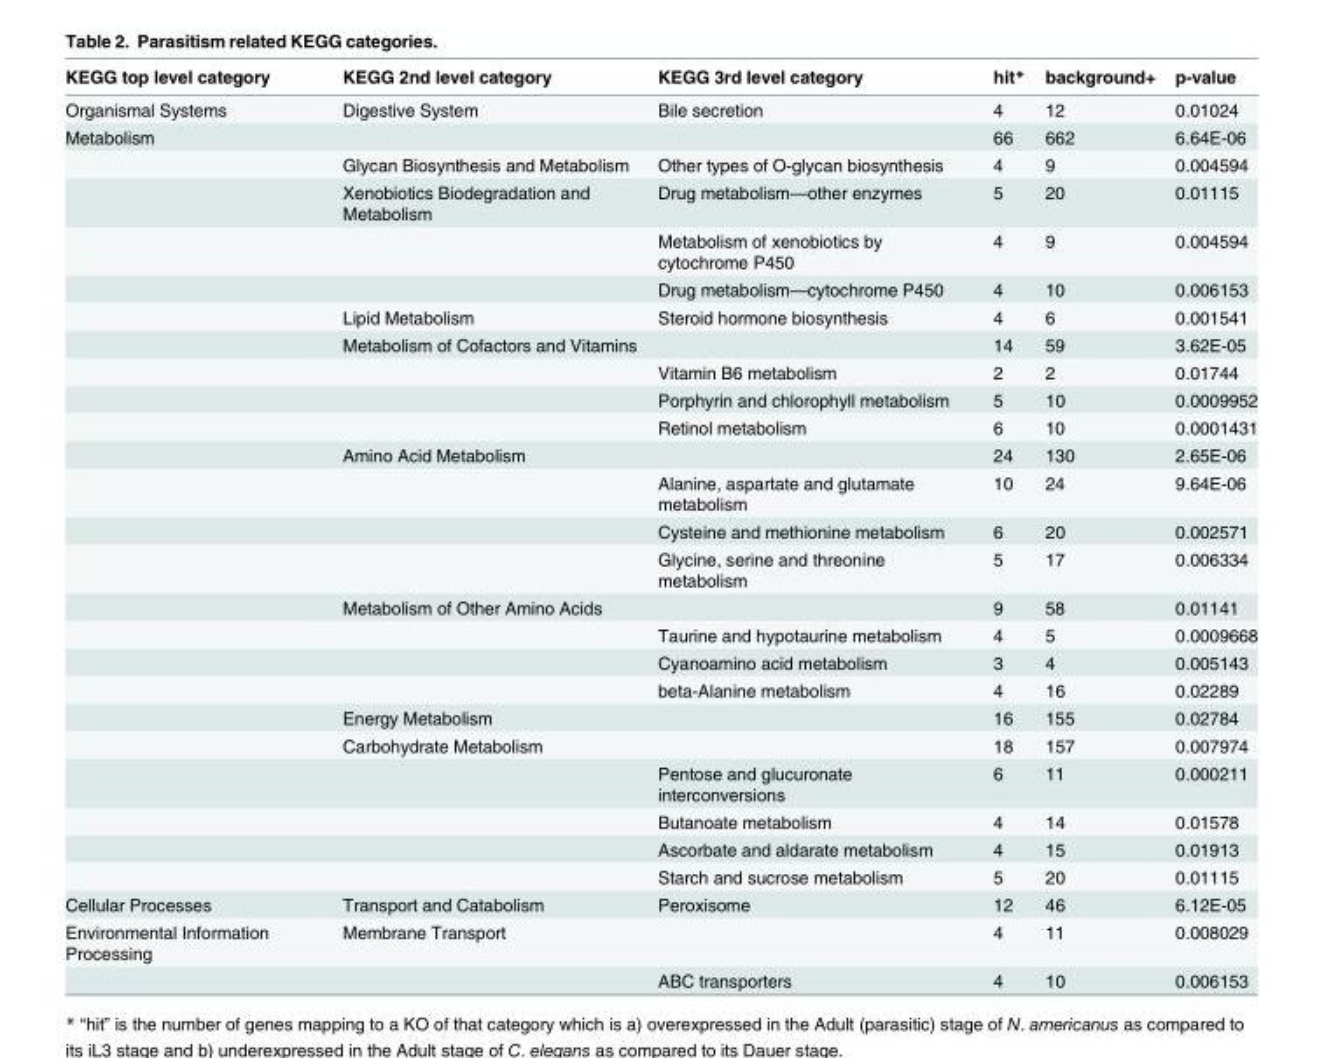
<table><thead><tr><td>KEGG top level category</td><td>KEGG 2nd level category</td><td>KEGG 3rd level category</td><td>hit*</td><td>background+</td><td>p-value</td></tr></thead><tbody><tr><td>Organismal Systems</td><td>Digestive System</td><td>Bile secretion</td><td>4</td><td>12</td><td>0.01024</td></tr><tr><td rowspan="24">Metabolism</td><td></td><td></td><td>66</td><td>662</td><td>6.64E-06</td></tr><tr><td>Glycan Biosynthesis and Metabolism</td><td>Other types of O-glycan biosynthesis</td><td>4</td><td>9</td><td>0.004594</td></tr><tr><td>Xenobiotics Biodegradation and Metabolism</td><td>Drug metabolism—other enzymes</td><td>5</td><td>20</td><td>0.01115</td></tr><tr><td></td><td>Metabolism of xenobiotics by cytochrome P450</td><td>4</td><td>9</td><td>0.004594</td></tr><tr><td></td><td>Drug metabolism—cytochrome P450</td><td>4</td><td>10</td><td>0.006153</td></tr><tr><td>Lipid Metabolism</td><td>Steroid hormone biosynthesis</td><td>4</td><td>6</td><td>0.001541</td></tr><tr><td>Metabolism of Cofactors and Vitamins</td><td></td><td>14</td><td>59</td><td>3.62E-05</td></tr><tr><td></td><td>Vitamin B6 metabolism</td><td>2</td><td>2</td><td>0.01744</td></tr><tr><td></td><td>Porphyrin and chlorophyll metabolism</td><td>5</td><td>10</td><td>0.0009952</td></tr><tr><td></td><td>Retinol metabolism</td><td>6</td><td>10</td><td>0.0001431</td></tr><tr><td>Amino Acid Metabolism</td><td></td><td>24</td><td>130</td><td>2.65E-06</td></tr><tr><td></td><td>Alanine, aspartate and glutamate metabolism</td><td>10</td><td>24</td><td>9.64E-06</td></tr><tr><td></td><td>Cysteine and methionine metabolism</td><td>6</td><td>20</td><td>0.002571</td></tr><tr><td></td><td>Glycine, serine and threonine metabolism</td><td>5</td><td>17</td><td>0.006334</td></tr><tr><td>Metabolism of Other Amino Acids</td><td></td><td>9</td><td>58</td><td>0.01141</td></tr><tr><td></td><td>Taurine and hypotaurine metabolism</td><td>4</td><td>5</td><td>0.0009668</td></tr><tr><td></td><td>Cyanoamino acid metabolism</td><td>3</td><td>4</td><td>0.005143</td></tr><tr><td></td><td>beta-Alanine metabolism</td><td>4</td><td>16</td><td>0.02289</td></tr><tr><td>Energy Metabolism</td><td></td><td>16</td><td>155</td><td>0.02784</td></tr><tr><td>Carbohydrate Metabolism</td><td></td><td>18</td><td>157</td><td>0.007974</td></tr><tr><td></td><td>Pentose and glucuronate interconversions</td><td>6</td><td>11</td><td>0.000211</td></tr><tr><td></td><td>Butanoate metabolism</td><td>4</td><td>14</td><td>0.01578</td></tr><tr><td></td><td>Ascorbate and aldarate metabolism</td><td>4</td><td>15</td><td>0.01913</td></tr><tr><td></td><td>Starch and sucrose metabolism</td><td>5</td><td>20</td><td>0.01115</td></tr><tr><td>Cellular Processes</td><td>Transport and Catabolism</td><td>Peroxisome</td><td>12</td><td>46</td><td>6.12E-05</td></tr><tr><td rowspan="2">Environmental Information Processing</td><td>Membrane Transport</td><td></td><td>4</td><td>11</td><td>0.008029</td></tr><tr><td></td><td>ABC transporters</td><td>4</td><td>10</td><td>0.006153</td></tr></tbody></table>